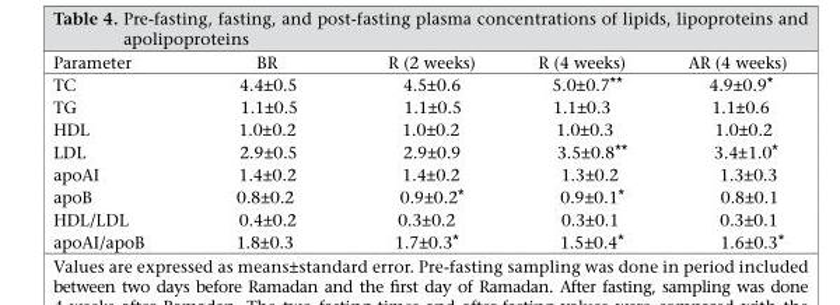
<table><thead><tr><td>Parameter</td><td>BR</td><td>R (2 weeks)</td><td>R (4 weeks)</td><td>AR (4 weeks)</td></tr></thead><tbody><tr><td>TC</td><td>4.4±0.5</td><td>4.5±0.6</td><td>5.0±0.7**</td><td>4.9±0.9*</td></tr><tr><td>TG</td><td>1.1±0.5</td><td>1.1±0.5</td><td>1.1±0.3</td><td>1.1±0.6</td></tr><tr><td>HDL</td><td>1.0±0.2</td><td>1.0±0.2</td><td>1.0±0.3</td><td>1.0±0.2</td></tr><tr><td>LDL</td><td>2.9±0.5</td><td>2.9±0.9</td><td>3.5±0.8**</td><td>3.4±1.0*</td></tr><tr><td>apoAI</td><td>1.4±0.2</td><td>1.4±0.2</td><td>1.3±0.2</td><td>1.3±0.3</td></tr><tr><td>apoB</td><td>0.8±0.2</td><td>0.9±0.2*</td><td>0.9±0.1*</td><td>0.8±0.1</td></tr><tr><td>HDL/LDL</td><td>0.4±0.2</td><td>0.3±0.2</td><td>0.3±0.1</td><td>0.3±0.1</td></tr><tr><td>apoAI/apoB</td><td>1.8±0.3</td><td>1.7±0.3*</td><td>1.5±0.4*</td><td>1.6±0.3*</td></tr></tbody></table>